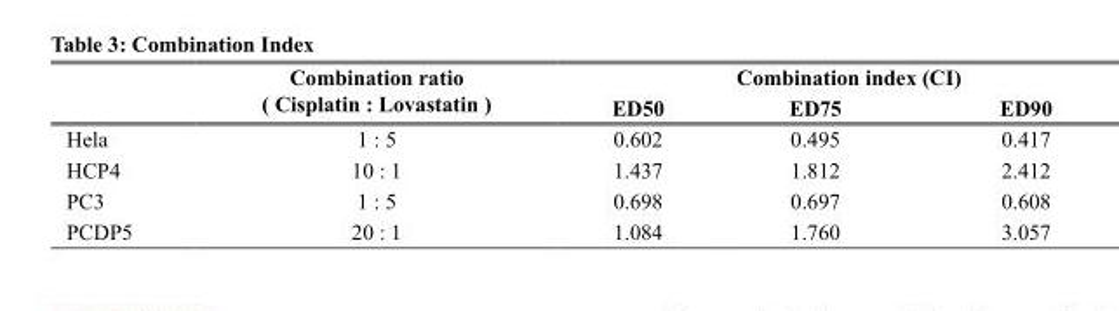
<table><thead><tr><td rowspan="2"></td><td rowspan="2">Combination ratio ( Cisplatin : Lovastatin )</td><td colspan="3">Combination index (CI)</td></tr><tr><td>ED50</td><td>ED75</td><td>ED90</td></tr></thead><tbody><tr><td>Hela</td><td>1 : 5</td><td>0.602</td><td>0.495</td><td>0.417</td></tr><tr><td>HCP4</td><td>10 : 1</td><td>1.437</td><td>1.812</td><td>2.412</td></tr><tr><td>PC3</td><td>1 : 5</td><td>0.698</td><td>0.697</td><td>0.608</td></tr><tr><td>PCDP5</td><td>20 : 1</td><td>1.084</td><td>1.760</td><td>3.057</td></tr></tbody></table>